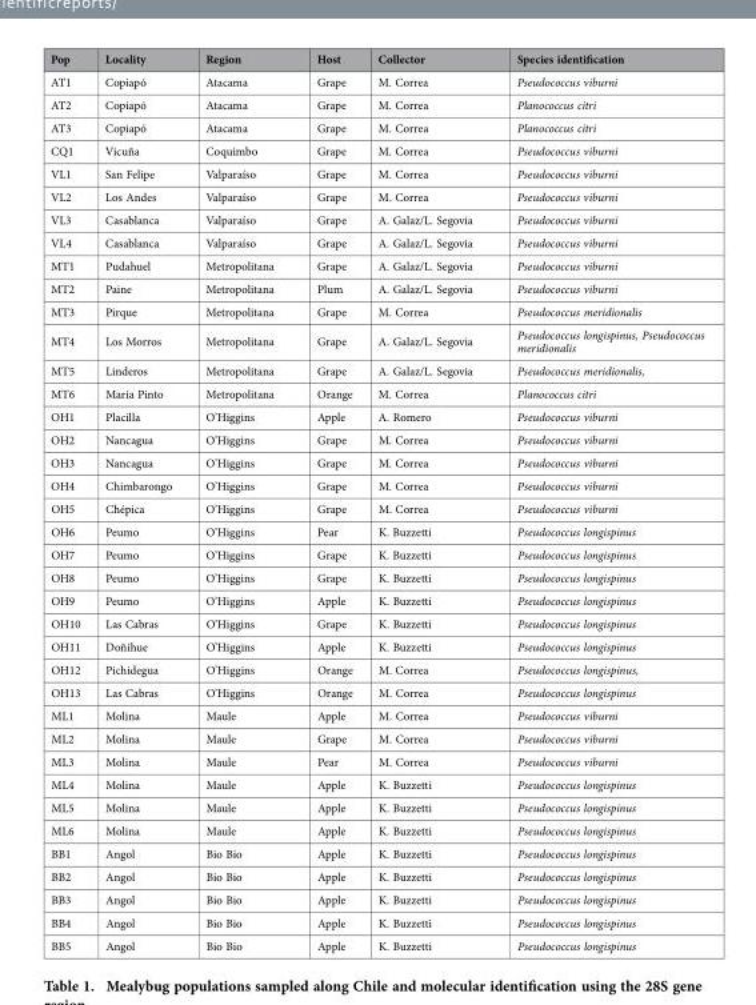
<table><thead><tr><td>Pop</td><td>Locality</td><td>Region</td><td>Host</td><td>Collector</td><td>Species identification</td></tr></thead><tbody><tr><td>AT1</td><td>Copiapó</td><td>Atacama</td><td>Grape</td><td>M. Correa</td><td>Pseudococcus viburni</td></tr><tr><td>AT2</td><td>Copiapó</td><td>Atacama</td><td>Grape</td><td>M. Correa</td><td>Planococcus citri</td></tr><tr><td>AT3</td><td>Copiapó</td><td>Atacama</td><td>Grape</td><td>M. Correa</td><td>Planococcus citri</td></tr><tr><td>CQ1</td><td>Vicuña</td><td>Coquimbo</td><td>Grape</td><td>M. Correa</td><td>Pseudococcus viburni</td></tr><tr><td>VL1</td><td>San Felipe</td><td>Valparaíso</td><td>Grape</td><td>M. Correa</td><td>Pseudococcus viburni</td></tr><tr><td>VL2</td><td>Los Andes</td><td>Valparaíso</td><td>Grape</td><td>M. Correa</td><td>Pseudococcus viburni</td></tr><tr><td>VL3</td><td>Casablanca</td><td>Valparaíso</td><td>Grape</td><td>A. Galaz/L. Segovia</td><td>Pseudococcus viburni</td></tr><tr><td>VL4</td><td>Casablanca</td><td>Valparaíso</td><td>Grape</td><td>A. Galaz/L. Segovia</td><td>Pseudococcus viburni</td></tr><tr><td>MT1</td><td>Pudahuel</td><td>Metropolitana</td><td>Grape</td><td>A. Galaz/L. Segovia</td><td>Pseudococcus viburni</td></tr><tr><td>MT2</td><td>Paine</td><td>Metropolitana</td><td>Plum</td><td>A. Galaz/L. Segovia</td><td>Pseudococcus viburni</td></tr><tr><td>MT3</td><td>Pirque</td><td>Metropolitana</td><td>Grape</td><td>M. Correa</td><td>Pseudococcus meridionalis</td></tr><tr><td>MT4</td><td>Los Morros</td><td>Metropolitana</td><td>Grape</td><td>A. Galaz/L. Segovia</td><td>Pseudococcus longispinus, Pseudococcus meridionalis</td></tr><tr><td>MT5</td><td>Linderos</td><td>Metropolitana</td><td>Grape</td><td>A. Galaz/L. Segovia</td><td>Pseudococcus meridionalis,</td></tr><tr><td>MT6</td><td>María Pinto</td><td>Metropolitana</td><td>Orange</td><td>M. Correa</td><td>Planococcus citri</td></tr><tr><td>OH1</td><td>Placilla</td><td>O’Higgins</td><td>Apple</td><td>A. Romero</td><td>Pseudococcus viburni</td></tr><tr><td>OH2</td><td>Nancagua</td><td>O’Higgins</td><td>Grape</td><td>M. Correa</td><td>Pseudococcus viburni</td></tr><tr><td>OH3</td><td>Nancagua</td><td>O’Higgins</td><td>Grape</td><td>M. Correa</td><td>Pseudococcus viburni</td></tr><tr><td>OH4</td><td>Chimbarongo</td><td>O’Higgins</td><td>Grape</td><td>M. Correa</td><td>Pseudococcus viburni</td></tr><tr><td>OH5</td><td>Chépica</td><td>O’Higgins</td><td>Grape</td><td>M. Correa</td><td>Pseudococcus viburni</td></tr><tr><td>OH6</td><td>Peumo</td><td>O’Higgins</td><td>Pear</td><td>K. Buzzetti</td><td>Pseudococcus longispinus</td></tr><tr><td>OH7</td><td>Peumo</td><td>O’Higgins</td><td>Grape</td><td>K. Buzzetti</td><td>Pseudococcus longispinus</td></tr><tr><td>OH8</td><td>Peumo</td><td>O’Higgins</td><td>Grape</td><td>K. Buzzetti</td><td>Pseudococcus longispinus</td></tr><tr><td>OH9</td><td>Peumo</td><td>O’Higgins</td><td>Apple</td><td>K. Buzzetti</td><td>Pseudococcus longispinus</td></tr><tr><td>OH10</td><td>Las Cabras</td><td>O’Higgins</td><td>Grape</td><td>K. Buzzetti</td><td>Pseudococcus longispinus</td></tr><tr><td>OH11</td><td>Doñihue</td><td>O’Higgins</td><td>Apple</td><td>K. Buzzetti</td><td>Pseudococcus longispinus</td></tr><tr><td>OH12</td><td>Pichidegua</td><td>O’Higgins</td><td>Orange</td><td>M. Correa</td><td>Pseudococcus longispinus,</td></tr><tr><td>OH13</td><td>Las Cabras</td><td>O’Higgins</td><td>Orange</td><td>M. Correa</td><td>Pseudococcus longispinus</td></tr><tr><td>ML1</td><td>Molina</td><td>Maule</td><td>Apple</td><td>M. Correa</td><td>Pseudococcus viburni</td></tr><tr><td>ML2</td><td>Molina</td><td>Maule</td><td>Grape</td><td>M. Correa</td><td>Pseudococcus viburni</td></tr><tr><td>ML3</td><td>Molina</td><td>Maule</td><td>Pear</td><td>M. Correa</td><td>Pseudococcus viburni</td></tr><tr><td>ML4</td><td>Molina</td><td>Maule</td><td>Apple</td><td>K. Buzzetti</td><td>Pseudococcus longispinus</td></tr><tr><td>ML5</td><td>Molina</td><td>Maule</td><td>Apple</td><td>K. Buzzetti</td><td>Pseudococcus longispinus</td></tr><tr><td>ML6</td><td>Molina</td><td>Maule</td><td>Apple</td><td>K. Buzzetti</td><td>Pseudococcus longispinus</td></tr><tr><td>BB1</td><td>Angol</td><td>Bio Bio</td><td>Apple</td><td>K. Buzzetti</td><td>Pseudococcus longispinus</td></tr><tr><td>BB2</td><td>Angol</td><td>Bio Bio</td><td>Apple</td><td>K. Buzzetti</td><td>Pseudococcus longispinus</td></tr><tr><td>BB3</td><td>Angol</td><td>Bio Bio</td><td>Apple</td><td>K. Buzzetti</td><td>Pseudococcus longispinus</td></tr><tr><td>BB4</td><td>Angol</td><td>Bio Bio</td><td>Apple</td><td>K. Buzzetti</td><td>Pseudococcus longispinus</td></tr><tr><td>BB5</td><td>Angol</td><td>Bio Bio</td><td>Apple</td><td>K. Buzzetti</td><td>Pseudococcus longispinus</td></tr></tbody></table>